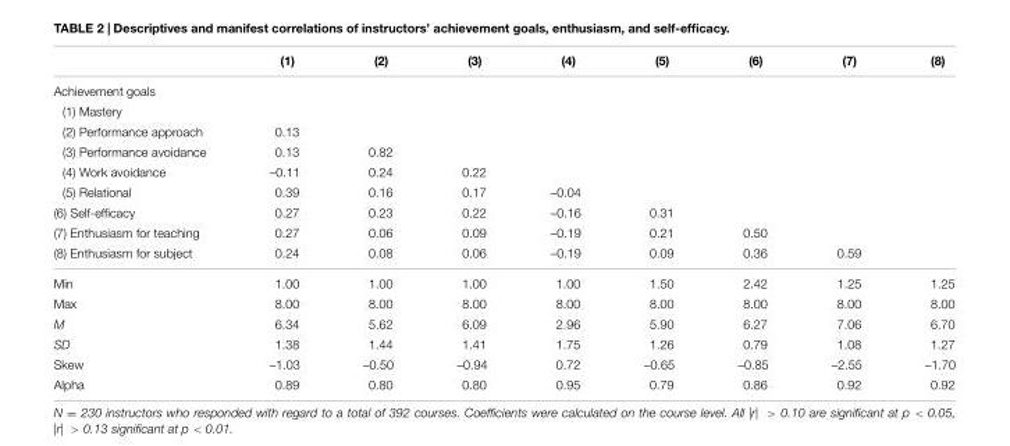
<table><thead><tr><td></td><td>(1)</td><td>(2)</td><td>(3)</td><td>(4)</td><td>(5)</td><td>(6)</td><td>(7)</td><td>(8)</td></tr></thead><tbody><tr><td colspan="9">Achievement goals</td></tr><tr><td colspan="9">(1) Mastery</td></tr><tr><td>(2) Performance approach</td><td>0.13</td><td></td><td></td><td></td><td></td><td></td><td></td><td></td></tr><tr><td>(3) Performance avoidance</td><td>0.13</td><td>0.82</td><td></td><td></td><td></td><td></td><td></td><td></td></tr><tr><td>(4) Work avoidance</td><td>–0.11</td><td>0.24</td><td>0.22</td><td></td><td></td><td></td><td></td><td></td></tr><tr><td>(5) Relational</td><td>0.39</td><td>0.16</td><td>0.17</td><td>–0.04</td><td></td><td></td><td></td><td></td></tr><tr><td>(6) Self-efficacy</td><td>0.27</td><td>0.23</td><td>0.22</td><td>–0.16</td><td>0.31</td><td></td><td></td><td></td></tr><tr><td>(7) Enthusiasm for teaching</td><td>0.27</td><td>0.06</td><td>0.09</td><td>–0.19</td><td>0.21</td><td>0.50</td><td></td><td></td></tr><tr><td>(8) Enthusiasm for subject</td><td>0.24</td><td>0.08</td><td>0.06</td><td>–0.19</td><td>0.09</td><td>0.36</td><td>0.59</td><td></td></tr><tr><td>Min</td><td>1.00</td><td>1.00</td><td>1.00</td><td>1.00</td><td>1.50</td><td>2.42</td><td>1.25</td><td>1.25</td></tr><tr><td>Max</td><td>8.00</td><td>8.00</td><td>8.00</td><td>8.00</td><td>8.00</td><td>8.00</td><td>8.00</td><td>8.00</td></tr><tr><td>M</td><td>6.34</td><td>5.62</td><td>6.09</td><td>2.96</td><td>5.90</td><td>6.27</td><td>7.06</td><td>6.70</td></tr><tr><td>SD</td><td>1.38</td><td>1.44</td><td>1.41</td><td>1.75</td><td>1.26</td><td>0.79</td><td>1.08</td><td>1.27</td></tr><tr><td>Skew</td><td>–1.03</td><td>–0.50</td><td>–0.94</td><td>0.72</td><td>–0.65</td><td>–0.85</td><td>–2.55</td><td>–1.70</td></tr><tr><td>Alpha</td><td>0.89</td><td>0.80</td><td>0.80</td><td>0.95</td><td>0.79</td><td>0.86</td><td>0.92</td><td>0.92</td></tr></tbody></table>